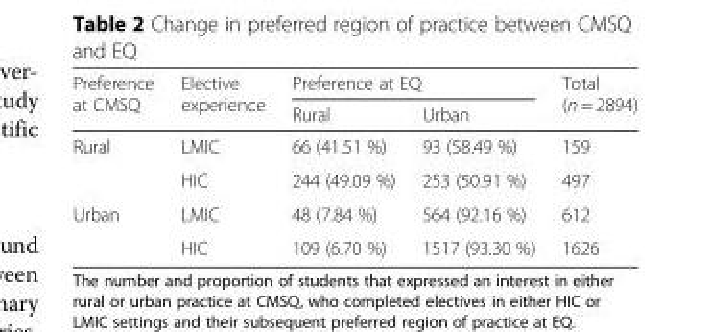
<table><thead><tr><td rowspan="2">Preference at CMSQ</td><td rowspan="2">Elective experience</td><td colspan="2">Preference at EQ</td><td rowspan="2">Total (n = 2894)</td></tr><tr><td>Rural</td><td>Urban</td></tr></thead><tbody><tr><td rowspan="2">Rural</td><td>LMIC</td><td>66 (41.51 %)</td><td>93 (58.49 %)</td><td>159</td></tr><tr><td>HIC</td><td>244 (49.09 %)</td><td>253 (50.91 %)</td><td>497</td></tr><tr><td rowspan="2">Urban</td><td>LMIC</td><td>48 (7.84 %)</td><td>564 (92.16 %)</td><td>612</td></tr><tr><td>HIC</td><td>109 (6.70 %)</td><td>1517 (93.30 %)</td><td>1626</td></tr></tbody></table>